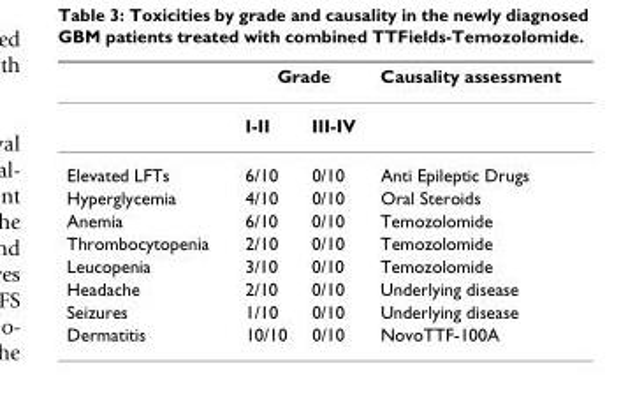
<table><thead><tr><td rowspan="2"></td><td colspan="2">Grade</td><td rowspan="2">Causality assessment</td></tr><tr><td>I-II</td><td>III-IV</td></tr></thead><tbody><tr><td>Elevated LFTs</td><td>6/10</td><td>0/10</td><td>Anti Epileptic Drugs</td></tr><tr><td>Hyperglycemia</td><td>4/10</td><td>0/10</td><td>Oral Steroids</td></tr><tr><td>Anemia</td><td>6/10</td><td>0/10</td><td>Temozolomide</td></tr><tr><td>Thrombocytopenia</td><td>2/10</td><td>0/10</td><td>Temozolomide</td></tr><tr><td>Leucopenia</td><td>3/10</td><td>0/10</td><td>Temozolomide</td></tr><tr><td>Headache</td><td>2/10</td><td>0/10</td><td>Underlying disease</td></tr><tr><td>Seizures</td><td>1/10</td><td>0/10</td><td>Underlying disease</td></tr><tr><td>Dermatitis</td><td>10/10</td><td>0/10</td><td>NovoTTF-100A</td></tr></tbody></table>